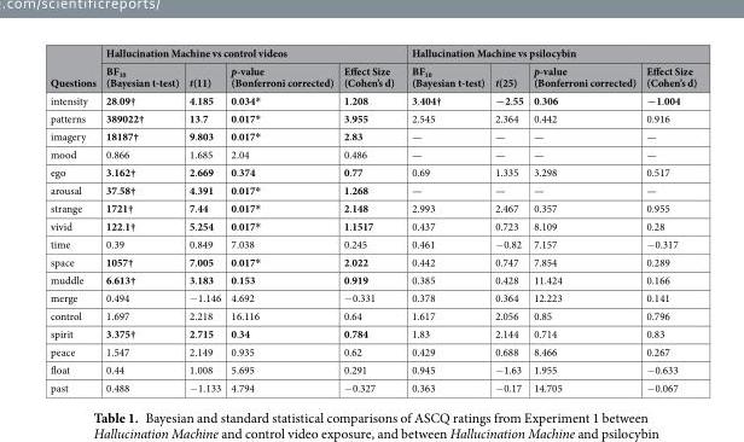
<table><thead><tr><td rowspan="2">Questions</td><td colspan="4">Hallucination Machine vs control videos</td><td colspan="4">Hallucination Machine vs psilocybin</td></tr><tr><td>BF<sub>10</sub> (Bayesian t-test)</td><td>t(11)</td><td>p-value (Bonferroni corrected)</td><td>Effect Size (Cohen’s d)</td><td>BF<sub>10</sub> (Bayesian t-test)</td><td>t(25)</td><td>p-value (Bonferroni corrected)</td><td>Effect Size (Cohen’s d)</td></tr></thead><tbody><tr><td>intensity</td><td>28.09†</td><td>4.185</td><td>0.034*</td><td>1.208</td><td>3.404†</td><td>−2.55</td><td>0.306</td><td>−1.004</td></tr><tr><td>patterns</td><td>389022†</td><td>13.7</td><td>0.017*</td><td>3.955</td><td>2.545</td><td>2.364</td><td>0.442</td><td>0.916</td></tr><tr><td>imagery</td><td>18187†</td><td>9.803</td><td>0.017*</td><td>2.83</td><td>—</td><td>—</td><td>—</td><td>—</td></tr><tr><td>mood</td><td>0.866</td><td>1.685</td><td>2.04</td><td>0.486</td><td>—</td><td>—</td><td>—</td><td>—</td></tr><tr><td>ego</td><td>3.162†</td><td>2.669</td><td>0.374</td><td>0.77</td><td>0.69</td><td>1.335</td><td>3.298</td><td>0.517</td></tr><tr><td>arousal</td><td>37.58†</td><td>4.391</td><td>0.017*</td><td>1.268</td><td>—</td><td>—</td><td>—</td><td>—</td></tr><tr><td>strange</td><td>1721†</td><td>7.44</td><td>0.017*</td><td>2.148</td><td>2.993</td><td>2.467</td><td>0.357</td><td>0.955</td></tr><tr><td>vivid</td><td>122.1†</td><td>5.254</td><td>0.017*</td><td>1.1517</td><td>0.437</td><td>0.723</td><td>8.109</td><td>0.28</td></tr><tr><td>time</td><td>0.39</td><td>0.849</td><td>7.038</td><td>0.245</td><td>0.461</td><td>−0.82</td><td>7.157</td><td>−0.317</td></tr><tr><td>space</td><td>1057†</td><td>7.005</td><td>0.017*</td><td>2.022</td><td>0.442</td><td>0.747</td><td>7.854</td><td>0.289</td></tr><tr><td>muddle</td><td>6.613†</td><td>3.183</td><td>0.153</td><td>0.919</td><td>0.385</td><td>0.428</td><td>11.424</td><td>0.166</td></tr><tr><td>merge</td><td>0.494</td><td>−1.146</td><td>4.692</td><td>−0.331</td><td>0.378</td><td>0.364</td><td>12.223</td><td>0.141</td></tr><tr><td>control</td><td>1.697</td><td>2.218</td><td>16.116</td><td>0.64</td><td>1.617</td><td>2.056</td><td>0.85</td><td>0.796</td></tr><tr><td>spirit</td><td>3.375†</td><td>2.715</td><td>0.34</td><td>0.784</td><td>1.83</td><td>2.144</td><td>0.714</td><td>0.83</td></tr><tr><td>peace</td><td>1.547</td><td>2.149</td><td>0.935</td><td>0.62</td><td>0.429</td><td>0.688</td><td>8.466</td><td>0.267</td></tr><tr><td>float</td><td>0.44</td><td>1.008</td><td>5.695</td><td>0.291</td><td>0.945</td><td>−1.63</td><td>1.955</td><td>−0.633</td></tr><tr><td>past</td><td>0.488</td><td>−1.133</td><td>4.794</td><td>−0.327</td><td>0.363</td><td>−0.17</td><td>14.705</td><td>−0.067</td></tr></tbody></table>